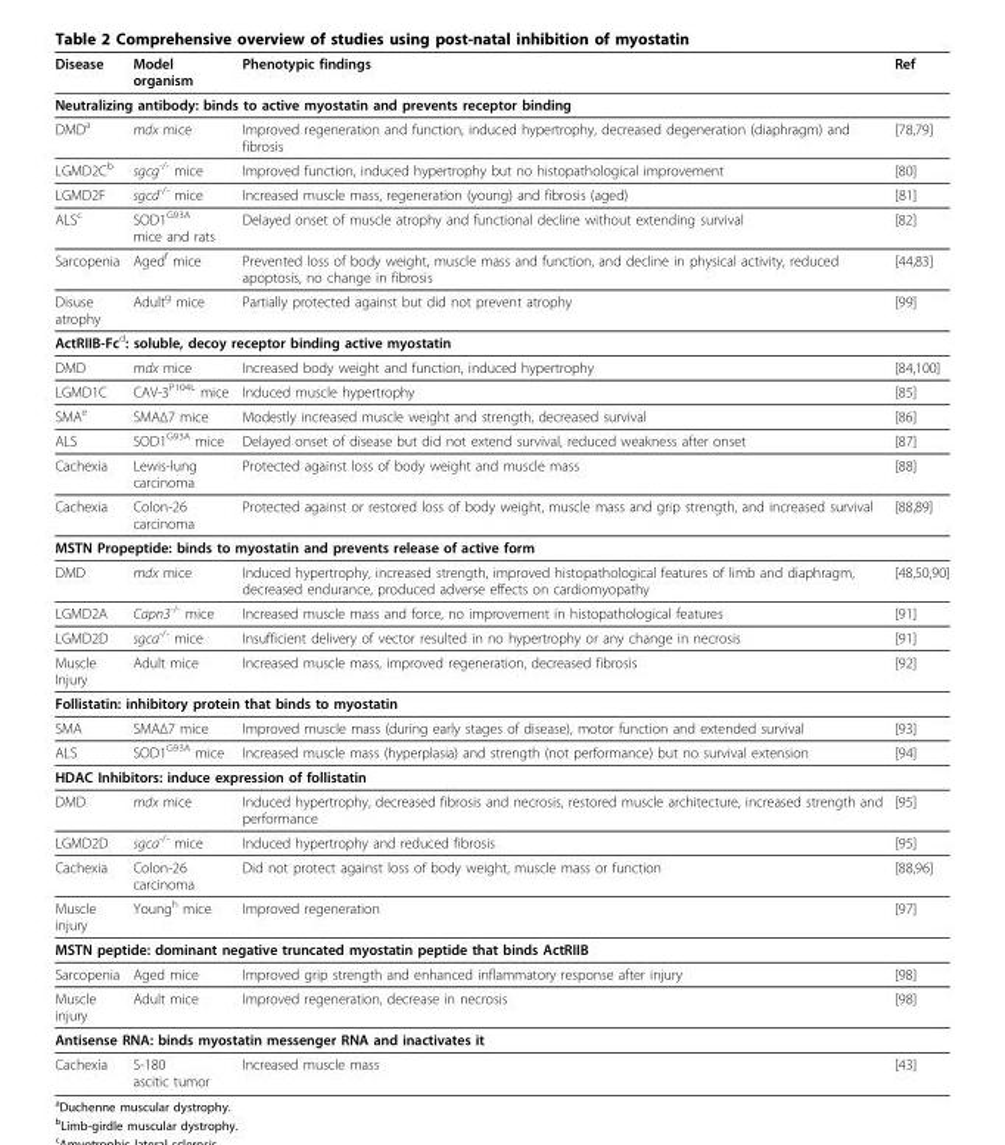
<table><thead><tr><td>Disease</td><td>Model organism</td><td>Phenotypic findings</td><td>Ref</td></tr></thead><tbody><tr><td colspan="4">Neutralizing antibody: binds to active myostatin and prevents receptor binding</td></tr><tr><td>DMD<sup>a</sup></td><td>mdx mice</td><td>Improved regeneration and function, induced hypertrophy, decreased degeneration (diaphragm) and fibrosis</td><td>[78,79]</td></tr><tr><td>LGMD2C<sup>b</sup></td><td>sgcg<sup>-/-</sup> mice</td><td>Improved function, induced hypertrophy but no histopathological improvement</td><td>[80]</td></tr><tr><td>LGMD2F</td><td>sgcd<sup>-/-</sup> mice</td><td>Increased muscle mass, regeneration (young) and fibrosis (aged)</td><td>[81]</td></tr><tr><td>ALS<sup>c</sup></td><td>SOD1<sup>G93A</sup> mice and rats</td><td>Delayed onset of muscle atrophy and functional decline without extending survival</td><td>[82]</td></tr><tr><td>Sarcopenia</td><td>Aged<sup>f</sup> mice</td><td>Prevented loss of body weight, muscle mass and function, and decline in physical activity, reduced apoptosis, no change in fibrosis</td><td>[44,83]</td></tr><tr><td>Disuse atrophy</td><td>Adult<sup>g</sup> mice</td><td>Partially protected against but did not prevent atrophy</td><td>[99]</td></tr><tr><td colspan="4">ActRIIB-Fc<sup>d</sup>: soluble, decoy receptor binding active myostatin</td></tr><tr><td>DMD</td><td>mdx mice</td><td>Increased body weight and function, induced hypertrophy</td><td>[84,100]</td></tr><tr><td>LGMD1C</td><td>CAV-3<sup>P104L</sup> mice</td><td>Induced muscle hypertrophy</td><td>[85]</td></tr><tr><td>SMA<sup>e</sup></td><td>SMAΔ7 mice</td><td>Modestly increased muscle weight and strength, decreased survival</td><td>[86]</td></tr><tr><td>ALS</td><td>SOD1<sup>G93A</sup> mice</td><td>Delayed onset of disease but did not extend survival, reduced weakness after onset</td><td>[87]</td></tr><tr><td>Cachexia</td><td>Lewis-lung carcinoma</td><td>Protected against loss of body weight and muscle mass</td><td>[88]</td></tr><tr><td>Cachexia</td><td>Colon-26 carcinoma</td><td>Protected against or restored loss of body weight, muscle mass and grip strength, and increased survival</td><td>[88,89]</td></tr><tr><td colspan="4">MSTN Propeptide: binds to myostatin and prevents release of active form</td></tr><tr><td>DMD</td><td>mdx mice</td><td>Induced hypertrophy, increased strength, improved histopathological features of limb and diaphragm, decreased endurance, produced adverse effects on cardiomyopathy</td><td>[48,50,90]</td></tr><tr><td>LGMD2A</td><td>Capn3<sup>-/-</sup> mice</td><td>Increased muscle mass and force, no improvement in histopathological features</td><td>[91]</td></tr><tr><td>LGMD2D</td><td>sgca<sup>-/-</sup> mice</td><td>Insufficient delivery of vector resulted in no hypertrophy or any change in necrosis</td><td>[91]</td></tr><tr><td>Muscle Injury</td><td>Adult mice</td><td>Increased muscle mass, improved regeneration, decreased fibrosis</td><td>[92]</td></tr><tr><td colspan="4">Follistatin: inhibitory protein that binds to myostatin</td></tr><tr><td>SMA</td><td>SMAΔ7 mice</td><td>Improved muscle mass (during early stages of disease), motor function and extended survival</td><td>[93]</td></tr><tr><td>ALS</td><td>SOD1<sup>G93A</sup> mice</td><td>Increased muscle mass (hyperplasia) and strength (not performance) but no survival extension</td><td>[94]</td></tr><tr><td colspan="4">HDAC Inhibitors: induce expression of follistatin</td></tr><tr><td>DMD</td><td>mdx mice</td><td>Induced hypertrophy, decreased fibrosis and necrosis, restored muscle architecture, increased strength and performance</td><td>[95]</td></tr><tr><td>LGMD2D</td><td>sgca<sup>-/-</sup> mice</td><td>Induced hypertrophy and reduced fibrosis</td><td>[95]</td></tr><tr><td>Cachexia</td><td>Colon-26 carcinoma</td><td>Did not protect against loss of body weight, muscle mass or function</td><td>[88,96]</td></tr><tr><td>Muscle injury</td><td>Young<sup>h</sup> mice</td><td>Improved regeneration</td><td>[97]</td></tr><tr><td colspan="4">MSTN peptide: dominant negative truncated myostatin peptide that binds ActRIIB</td></tr><tr><td>Sarcopenia</td><td>Aged mice</td><td>Improved grip strength and enhanced inflammatory response after injury</td><td>[98]</td></tr><tr><td>Muscle injury</td><td>Adult mice</td><td>Improved regeneration, decrease in necrosis</td><td>[98]</td></tr><tr><td colspan="4">Antisense RNA: binds myostatin messenger RNA and inactivates it</td></tr><tr><td>Cachexia</td><td>S-180 ascitic tumor</td><td>Increased muscle mass</td><td>[43]</td></tr></tbody></table>